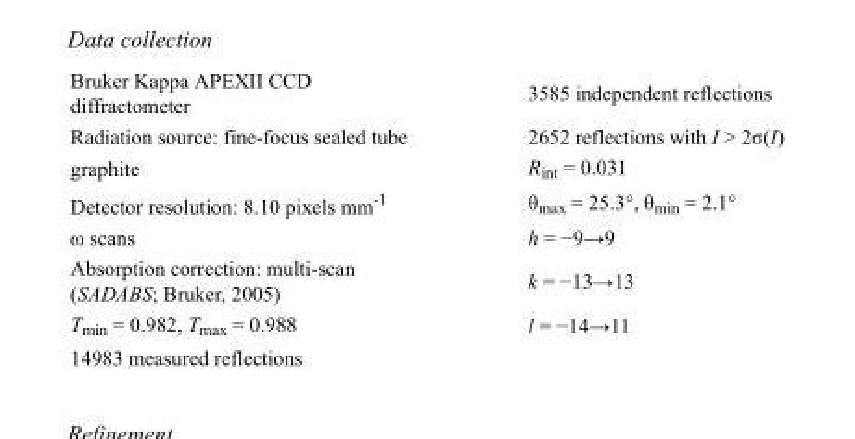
<table><tbody><tr><td>Bruker Kappa APEXII CCD diffractometer</td><td>3585 independent reflections</td></tr><tr><td>Radiation source: fine-focus sealed tube</td><td>2652 reflections with I &gt; 2σ(I)</td></tr><tr><td>graphite</td><td>R<sub>int</sub> = 0.031</td></tr><tr><td>Detector resolution: 8.10 pixels mm<sup>-1</sup></td><td>θ<sub>max</sub> = 25.3°, θ<sub>min</sub> = 2.1°</td></tr><tr><td>ω scans</td><td>h = −9→9</td></tr><tr><td>Absorption correction: multi-scan (SADABS; Bruker, 2005)</td><td>k = −13→13</td></tr><tr><td>T<sub>min</sub> = 0.982, T<sub>max</sub> = 0.988</td><td>l = −14→11</td></tr><tr><td>14983 measured reflections</td><td></td></tr></tbody></table>